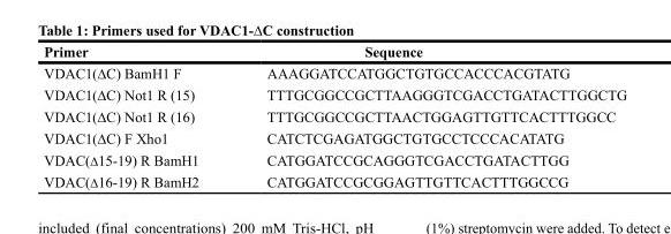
<table><thead><tr><td>Primer</td><td>Sequence</td></tr></thead><tbody><tr><td>VDAC1(∆C) BamH1 F</td><td>AAAGGATCCATGGCTGTGCCACCCACGTATG</td></tr><tr><td>VDAC1(∆C) Not1 R (15)</td><td>TTTGCGGCCGCTTAAGGGTCGACCTGATACTTGGCTG</td></tr><tr><td>VDAC1(∆C) Not1 R (16)</td><td>TTTGCGGCCGCTTAACTGGAGTTGTTCACTTTGGCC</td></tr><tr><td>VDAC1(∆C) F Xho1</td><td>CATCTCGAGATGGCTGTGCCTCCCACATATG</td></tr><tr><td>VDAC(∆15-19) R BamH1</td><td>CATGGATCCGCAGGGTCGACCTGATACTTGG</td></tr><tr><td>VDAC(∆16-19) R BamH2</td><td>CATGGATCCGCGGAGTTGTTCACTTTGGCCG</td></tr></tbody></table>